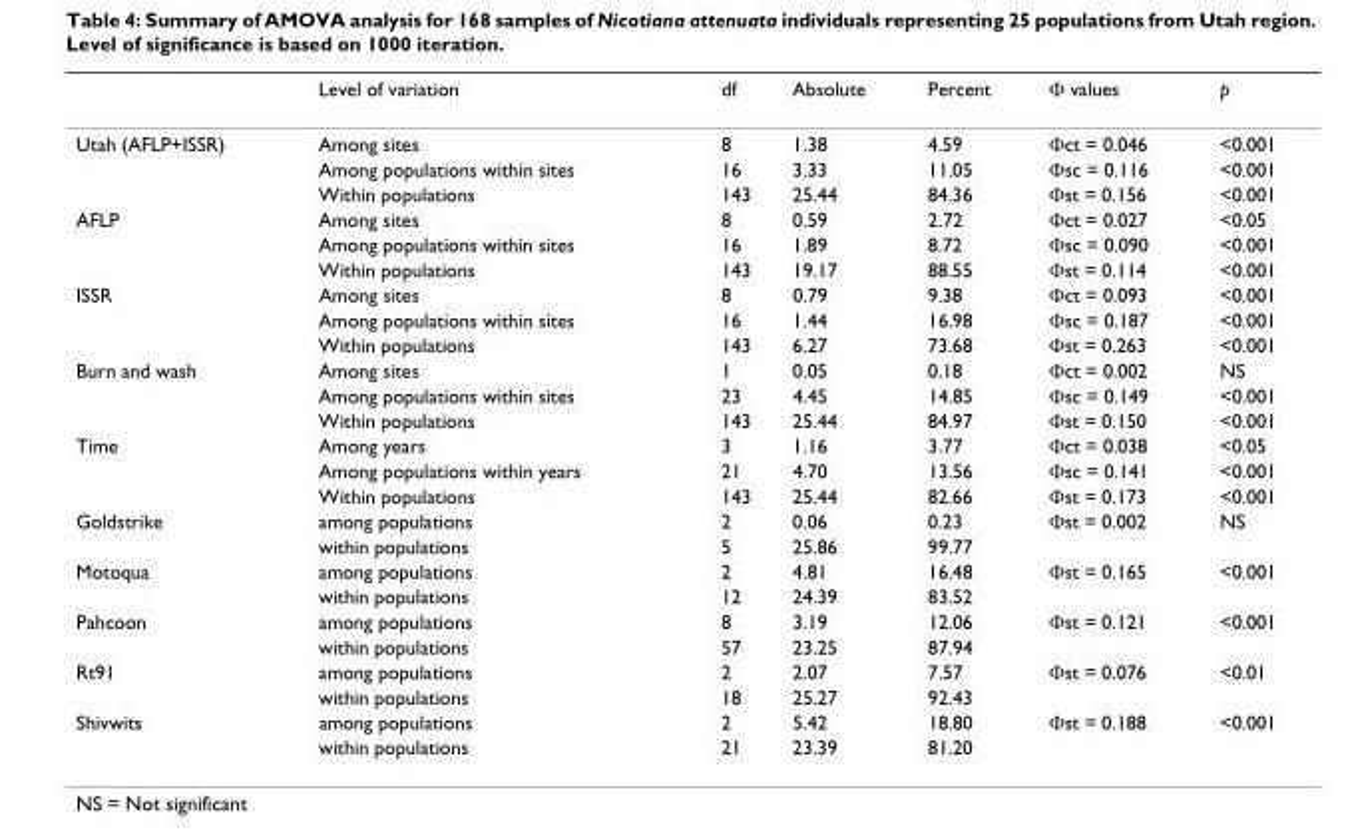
<table><thead><tr><td></td><td>Level of variation</td><td>df</td><td>Absolute</td><td>Percent</td><td>Φ values</td><td>p</td></tr></thead><tbody><tr><td rowspan="3">Utah (AFLP+ISSR)</td><td>Among sites</td><td>8</td><td>1.38</td><td>4.59</td><td>Φct = 0.046</td><td>&lt;0.001</td></tr><tr><td>Among populations within sites</td><td>16</td><td>3.33</td><td>11.05</td><td>Φsc = 0.116</td><td>&lt;0.001</td></tr><tr><td>Within populations</td><td>143</td><td>25.44</td><td>84.36</td><td>Φst = 0.156</td><td>&lt;0.001</td></tr><tr><td rowspan="3">AFLP</td><td>Among sites</td><td>8</td><td>0.59</td><td>2.72</td><td>Φct = 0.027</td><td>&lt;0.05</td></tr><tr><td>Among populations within sites</td><td>16</td><td>1.89</td><td>8.72</td><td>Φsc = 0.090</td><td>&lt;0.001</td></tr><tr><td>Within populations</td><td>143</td><td>19.17</td><td>88.55</td><td>Φst = 0.114</td><td>&lt;0.001</td></tr><tr><td rowspan="3">ISSR</td><td>Among sites</td><td>8</td><td>0.79</td><td>9.38</td><td>Φct = 0.093</td><td>&lt;0.001</td></tr><tr><td>Among populations within sites</td><td>16</td><td>1.44</td><td>16.98</td><td>Φsc = 0.187</td><td>&lt;0.001</td></tr><tr><td>Within populations</td><td>143</td><td>6.27</td><td>73.68</td><td>Φst = 0.263</td><td>&lt;0.001</td></tr><tr><td rowspan="3">Burn and wash</td><td>Among sites</td><td>1</td><td>0.05</td><td>0.18</td><td>Φct = 0.002</td><td>NS</td></tr><tr><td>Among populations within sites</td><td>23</td><td>4.45</td><td>14.85</td><td>Φsc = 0.149</td><td>&lt;0.001</td></tr><tr><td>Within populations</td><td>143</td><td>25.44</td><td>84.97</td><td>Φst = 0.150</td><td>&lt;0.001</td></tr><tr><td rowspan="3">Time</td><td>Among years</td><td>3</td><td>1.16</td><td>3.77</td><td>Φct = 0.038</td><td>&lt;0.05</td></tr><tr><td>Among populations within years</td><td>21</td><td>4.70</td><td>13.56</td><td>Φsc = 0.141</td><td>&lt;0.001</td></tr><tr><td>Within populations</td><td>143</td><td>25.44</td><td>82.66</td><td>Φst = 0.173</td><td>&lt;0.001</td></tr><tr><td rowspan="2">Goldstrike</td><td>among populations</td><td>2</td><td>0.06</td><td>0.23</td><td>Φst = 0.002</td><td>NS</td></tr><tr><td>within populations</td><td>5</td><td>25.86</td><td>99.77</td><td></td><td></td></tr><tr><td rowspan="2">Motoqua</td><td>among populations</td><td>2</td><td>4.81</td><td>16.48</td><td>Φst = 0.165</td><td>&lt;0.001</td></tr><tr><td>within populations</td><td>12</td><td>24.39</td><td>83.52</td><td></td><td></td></tr><tr><td rowspan="2">Pahcoon</td><td>among populations</td><td>8</td><td>3.19</td><td>12.06</td><td>Φst = 0.121</td><td>&lt;0.001</td></tr><tr><td>within populations</td><td>57</td><td>23.25</td><td>87.94</td><td></td><td></td></tr><tr><td rowspan="2">Rt91</td><td>among populations</td><td>2</td><td>2.07</td><td>7.57</td><td>Φst = 0.076</td><td>&lt;0.01</td></tr><tr><td>within populations</td><td>18</td><td>25.27</td><td>92.43</td><td></td><td></td></tr><tr><td rowspan="2">Shivwits</td><td>among populations</td><td>2</td><td>5.42</td><td>18.80</td><td>Φst = 0.188</td><td>&lt;0.001</td></tr><tr><td>within populations</td><td>21</td><td>23.39</td><td>81.20</td><td></td><td></td></tr></tbody></table>